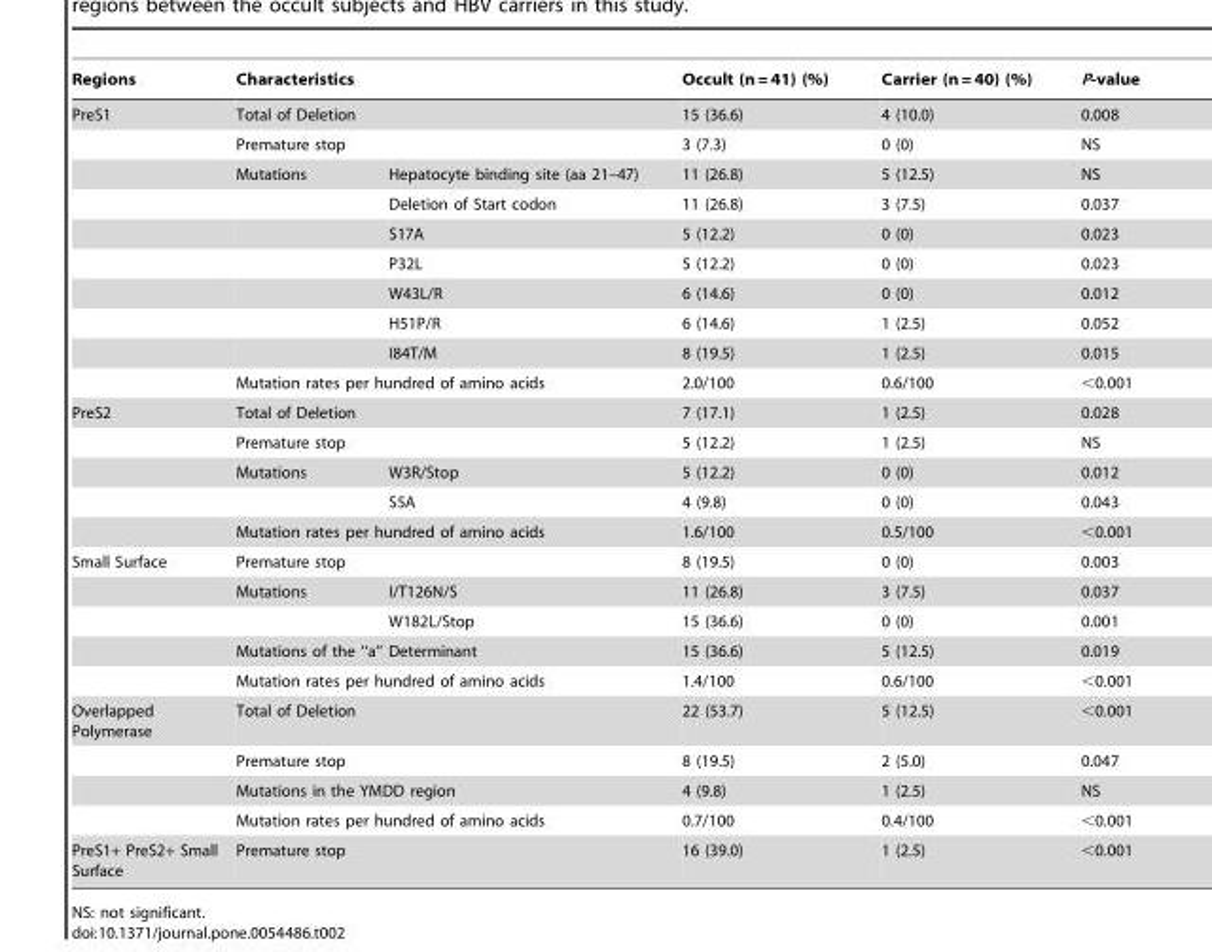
<table><thead><tr><td rowspan="4">Regions PreS1</td><td rowspan="3" colspan="2">Characteristics Total of Deletion Premature stop</td><td rowspan="4">Occult (n = 41) (%) 15 (36.6) 3 (7.3) 11 (26.8)</td><td rowspan="4">Carrier (n = 40) (%) 4 (10.0) 0 (0) 5 (12.5)</td><td rowspan="4">P-value 0.008 NS NS</td></tr><tr></tr><tr></tr><tr><td>Mutations</td><td>Hepatocyte binding site (aa 21–47)</td></tr></thead><tbody><tr><td></td><td></td><td>Deletion of Start codon</td><td>11 (26.8)</td><td>3 (7.5)</td><td>0.037</td></tr><tr><td></td><td></td><td>S17A</td><td>5 (12.2)</td><td>0 (0)</td><td>0.023</td></tr><tr><td></td><td></td><td>P32L</td><td>5 (12.2)</td><td>0 (0)</td><td>0.023</td></tr><tr><td></td><td></td><td>W43L/R</td><td>6 (14.6)</td><td>0 (0)</td><td>0.012</td></tr><tr><td></td><td></td><td>H51P/R</td><td>6 (14.6)</td><td>1 (2.5)</td><td>0.052</td></tr><tr><td></td><td></td><td>I84T/M</td><td>8 (19.5)</td><td>1 (2.5)</td><td>0.015</td></tr><tr><td></td><td colspan="2">Mutation rates per hundred of amino acids</td><td>2.0/100</td><td>0.6/100</td><td>&lt;0.001</td></tr><tr><td rowspan="5">PreS2</td><td colspan="2">Total of Deletion</td><td>7 (17.1)</td><td>1 (2.5)</td><td>0.028</td></tr><tr><td colspan="2">Premature stop</td><td>5 (12.2)</td><td>1 (2.5)</td><td>NS</td></tr><tr><td>Mutations</td><td>W3R/Stop</td><td>5 (12.2)</td><td>0 (0)</td><td>0.012</td></tr><tr><td></td><td>S5A</td><td>4 (9.8)</td><td>0 (0)</td><td>0.043</td></tr><tr><td colspan="2">Mutation rates per hundred of amino acids</td><td>1.6/100</td><td>0.5/100</td><td>&lt;0.001</td></tr><tr><td rowspan="5">Small Surface</td><td colspan="2">Premature stop</td><td>8 (19.5)</td><td>0 (0)</td><td>0.003</td></tr><tr><td>Mutations</td><td>I/T126N/S</td><td>11 (26.8)</td><td>3 (7.5)</td><td>0.037</td></tr><tr><td></td><td>W182L/Stop</td><td>15 (36.6)</td><td>0 (0)</td><td>0.001</td></tr><tr><td colspan="2">Mutations of the ‘‘a’’ Determinant</td><td>15 (36.6)</td><td>5 (12.5)</td><td>0.019</td></tr><tr><td colspan="2">Mutation rates per hundred of amino acids</td><td>1.4/100</td><td>0.6/100</td><td>&lt;0.001</td></tr><tr><td rowspan="4">Overlapped Polymerase</td><td colspan="2">Total of Deletion</td><td>22 (53.7)</td><td>5 (12.5)</td><td>&lt;0.001</td></tr><tr><td colspan="2">Premature stop</td><td>8 (19.5)</td><td>2 (5.0)</td><td>0.047</td></tr><tr><td colspan="2">Mutations in the YMDD region</td><td>4 (9.8)</td><td>1 (2.5)</td><td>NS</td></tr><tr><td colspan="2">Mutation rates per hundred of amino acids</td><td>0.7/100</td><td>0.4/100</td><td>&lt;0.001</td></tr><tr><td>PreS1+ PreS2+ Small Surface</td><td colspan="2">Premature stop</td><td>16 (39.0)</td><td>1 (2.5)</td><td>&lt;0.001</td></tr></tbody></table>